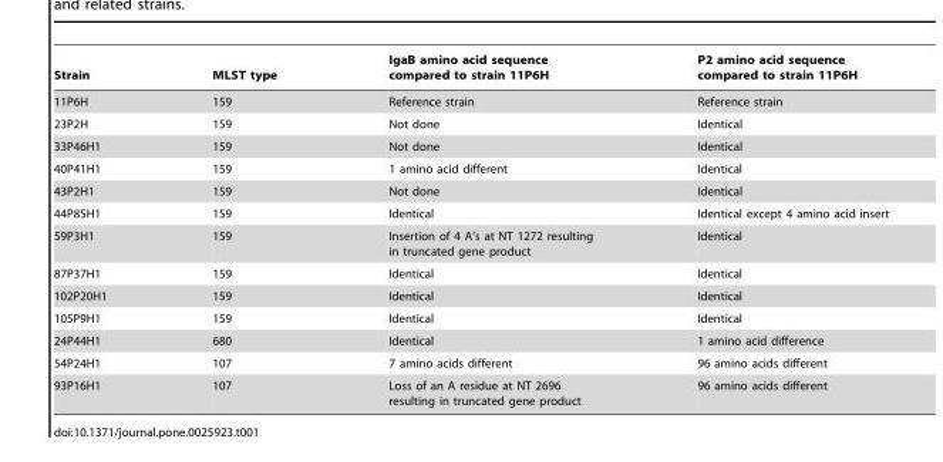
<table><thead><tr><td>Strain</td><td>MLST type</td><td>IgaB amino acid sequence compared to strain 11P6H</td><td>P2 amino acid sequence compared to strain 11P6H</td></tr></thead><tbody><tr><td>11P6H</td><td>159</td><td>Reference strain</td><td>Reference strain</td></tr><tr><td>23P2H</td><td>159</td><td>Not done</td><td>Identical</td></tr><tr><td>33P46H1</td><td>159</td><td>Not done</td><td>Identical</td></tr><tr><td>40P41H1</td><td>159</td><td>1 amino acid different</td><td>Identical</td></tr><tr><td>43P2H1</td><td>159</td><td>Not done</td><td>Identical</td></tr><tr><td>44P85H1</td><td>159</td><td>Identical</td><td>Identical except 4 amino acid insert</td></tr><tr><td>59P3H1</td><td>159</td><td>Insertion of 4 A’s at NT 1272 resulting in truncated gene product</td><td>Identical</td></tr><tr><td>87P37H1</td><td>159</td><td>Identical</td><td>Identical</td></tr><tr><td>102P20H1</td><td>159</td><td>Identical</td><td>Identical</td></tr><tr><td>105P9H1</td><td>159</td><td>Identical</td><td>Identical</td></tr><tr><td>24P44H1</td><td>680</td><td>Identical</td><td>1 amino acid difference</td></tr><tr><td>54P24H1</td><td>107</td><td>7 amino acids different</td><td>96 amino acids different</td></tr><tr><td>93P16H1</td><td>107</td><td>Loss of an A residue at NT 2696 resulting in truncated gene product</td><td>96 amino acids different</td></tr></tbody></table>